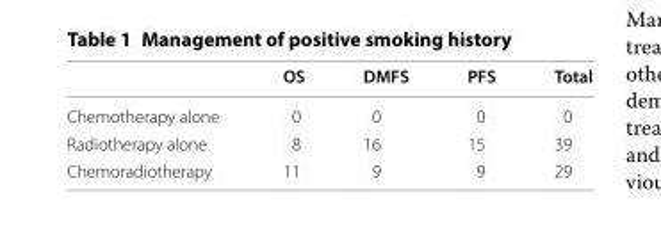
<table><thead><tr><td></td><td>OS</td><td>DMFS</td><td>PFS</td><td>Total</td></tr></thead><tbody><tr><td>Chemotherapy alone</td><td>0</td><td>0</td><td>0</td><td>0</td></tr><tr><td>Radiotherapy alone</td><td>8</td><td>16</td><td>15</td><td>39</td></tr><tr><td>Chemoradiotherapy</td><td>11</td><td>9</td><td>9</td><td>29</td></tr></tbody></table>